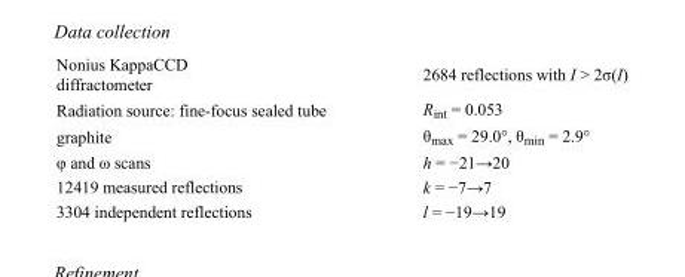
<table><tbody><tr><td>Nonius KappaCCD diffractometer</td><td>2684 reflections with I &gt; 2σ(I)</td></tr><tr><td>Radiation source: fine-focus sealed tube</td><td>R<sub>int</sub> = 0.053</td></tr><tr><td>graphite</td><td>θ<sub>max</sub> = 29.0°, θ<sub>min</sub> = 2.9°</td></tr><tr><td>φ and ω scans</td><td>h = −21→20</td></tr><tr><td>12419 measured reflections</td><td>k = −7→7</td></tr><tr><td>3304 independent reflections</td><td>l = −19→19</td></tr></tbody></table>